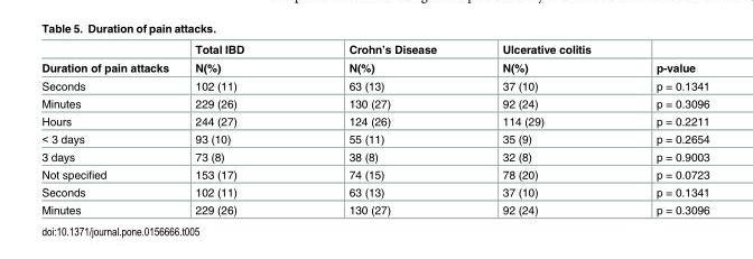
<table><thead><tr><td rowspan="2">Duration of pain attacks</td><td rowspan="2">Total IBD N(%)</td><td rowspan="2">Crohn’s Disease N(%)</td><td rowspan="2">Ulcerative colitis N(%)</td><td rowspan="2">p-value</td></tr><tr></tr></thead><tbody><tr><td>Seconds</td><td>102 (11)</td><td>63 (13)</td><td>37 (10)</td><td>p = 0.1341</td></tr><tr><td>Minutes</td><td>229 (26)</td><td>130 (27)</td><td>92 (24)</td><td>p = 0.3096</td></tr><tr><td>Hours</td><td>244 (27)</td><td>124 (26)</td><td>114 (29)</td><td>p = 0.2211</td></tr><tr><td>&lt; 3 days</td><td>93 (10)</td><td>55 (11)</td><td>35 (9)</td><td>p = 0.2654</td></tr><tr><td>3 days</td><td>73 (8)</td><td>38 (8)</td><td>32 (8)</td><td>p = 0.9003</td></tr><tr><td>Not specified</td><td>153 (17)</td><td>74 (15)</td><td>78 (20)</td><td>p = 0.0723</td></tr><tr><td>Seconds</td><td>102 (11)</td><td>63 (13)</td><td>37 (10)</td><td>p = 0.1341</td></tr><tr><td>Minutes</td><td>229 (26)</td><td>130 (27)</td><td>92 (24)</td><td>p = 0.3096</td></tr></tbody></table>